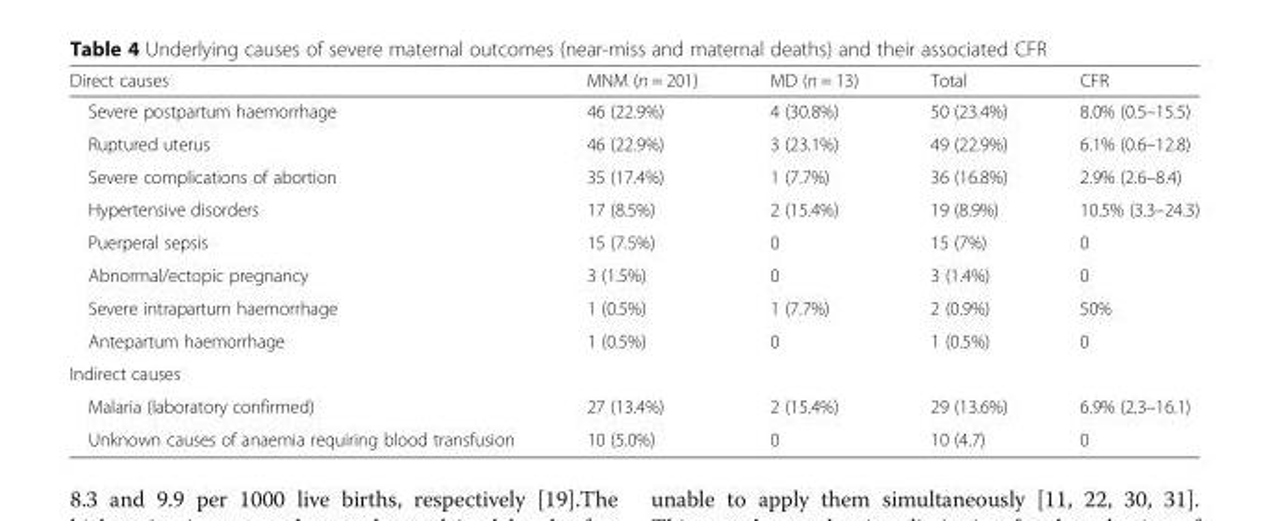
<table><thead><tr><td>Direct causes</td><td>MNM (n = 201)</td><td>MD (n = 13)</td><td>Total</td><td>CFR</td></tr></thead><tbody><tr><td>Severe postpartum haemorrhage</td><td>46 (22.9%)</td><td>4 (30.8%)</td><td>50 (23.4%)</td><td>8.0% (0.5–15.5)</td></tr><tr><td>Ruptured uterus</td><td>46 (22.9%)</td><td>3 (23.1%)</td><td>49 (22.9%)</td><td>6.1% (0.6–12.8)</td></tr><tr><td>Severe complications of abortion</td><td>35 (17.4%)</td><td>1 (7.7%)</td><td>36 (16.8%)</td><td>2.9% (2.6–8.4)</td></tr><tr><td>Hypertensive disorders</td><td>17 (8.5%)</td><td>2 (15.4%)</td><td>19 (8.9%)</td><td>10.5% (3.3–24.3)</td></tr><tr><td>Puerperal sepsis</td><td>15 (7.5%)</td><td>0</td><td>15 (7%)</td><td>0</td></tr><tr><td>Abnormal/ectopic pregnancy</td><td>3 (1.5%)</td><td>0</td><td>3 (1.4%)</td><td>0</td></tr><tr><td>Severe intrapartum haemorrhage</td><td>1 (0.5%)</td><td>1 (7.7%)</td><td>2 (0.9%)</td><td>50%</td></tr><tr><td>Antepartum haemorrhage</td><td>1 (0.5%)</td><td>0</td><td>1 (0.5%)</td><td>0</td></tr><tr><td colspan="5">Indirect causes</td></tr><tr><td>Malaria (laboratory confirmed)</td><td>27 (13.4%)</td><td>2 (15.4%)</td><td>29 (13.6%)</td><td>6.9% (2.3–16.1)</td></tr><tr><td>Unknown causes of anaemia requiring blood transfusion</td><td>10 (5.0%)</td><td>0</td><td>10 (4.7)</td><td>0</td></tr></tbody></table>